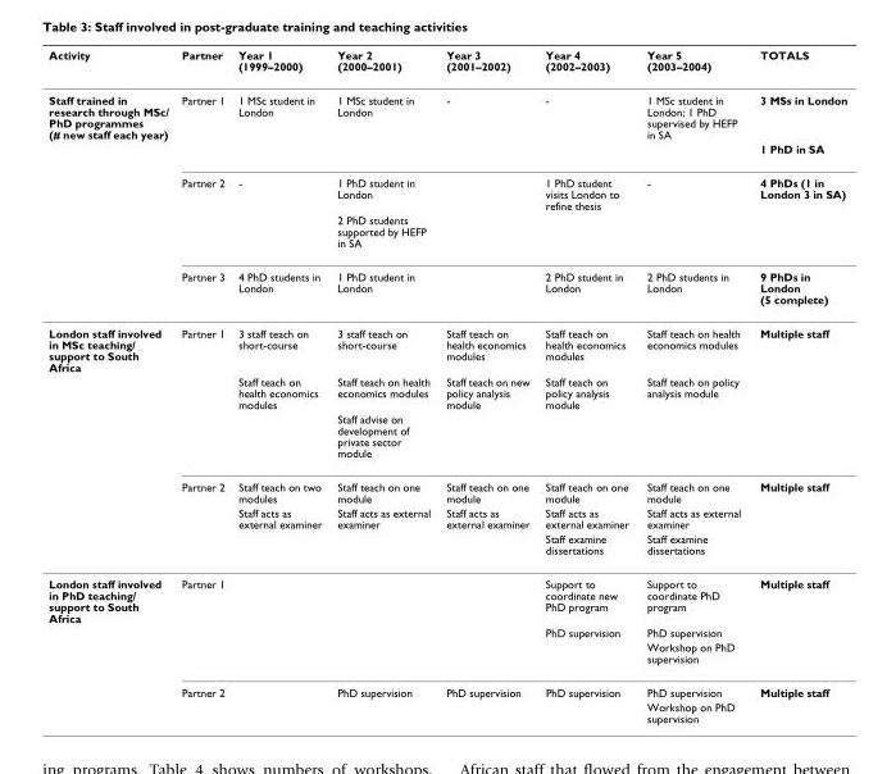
<table><thead><tr><td>Activity</td><td>Partner</td><td>Year 1 (1999–2000)</td><td>Year 2 (2000–2001)</td><td>Year 3 (2001–2002)</td><td>Year 4 (2002–2003)</td><td>Year 5 (2003–2004)</td><td>TOTALS</td></tr></thead><tbody><tr><td rowspan="5">Staff trained in research through MSc/ PhD programmes (# new staff each year)</td><td>Partner 1</td><td>1 MSc student in London</td><td>1 MSc student in London</td><td>-</td><td>-</td><td>1 MSc student in London; 1 PhD supervised by HEFP in SA</td><td>3 MSs in London</td></tr><tr><td></td><td></td><td></td><td></td><td></td><td></td><td>1 PhD in SA</td></tr><tr><td>Partner 2</td><td>-</td><td>1 PhD student in London</td><td></td><td>1 PhD student visits London to refine thesis</td><td>-</td><td>4 PhDs (1 in London 3 in SA)</td></tr><tr><td></td><td></td><td>2 PhD students supported by HEFP in SA</td><td></td><td></td><td></td><td></td></tr><tr><td>Partner 3</td><td>4 PhD students in London</td><td>1 PhD student in London</td><td></td><td>2 PhD student in London</td><td>2 PhD students in London</td><td>9 PhDs in London (5 complete)</td></tr><tr><td rowspan="6">London staff involved in MSc teaching/ support to South Africa</td><td>Partner 1</td><td>3 staff teach on short-course</td><td>3 staff teach on short-course</td><td>Staff teach on health economics modules</td><td>Staff teach on health economics modules</td><td>Staff teach on health economics modules</td><td>Multiple staff</td></tr><tr><td></td><td>Staff teach on health economics modules</td><td>Staff teach on health economics modules</td><td>Staff teach on new policy analysis module</td><td>Staff teach on policy analysis module</td><td>Staff teach on policy analysis module</td><td></td></tr><tr><td></td><td></td><td>Staff advise on development of private sector module</td><td></td><td></td><td></td><td></td></tr><tr><td>Partner 2</td><td>Staff teach on two modules</td><td>Staff teach on one module</td><td>Staff teach on one module</td><td>Staff teach on one module</td><td>Staff teach on one module</td><td>Multiple staff</td></tr><tr><td></td><td>Staff acts as external examiner</td><td>Staff acts as external examiner</td><td>Staff acts as external examiner</td><td>Staff acts as external examiner</td><td>Staff acts as external examiner</td><td></td></tr><tr><td></td><td></td><td></td><td></td><td>Staff examine dissertations</td><td>Staff examine dissertations</td><td></td></tr><tr><td rowspan="5">London staff involved in PhD teaching/ support to South Africa</td><td>Partner 1</td><td></td><td></td><td></td><td>Support to coordinate new PhD program</td><td>Support to coordinate PhD program</td><td>Multiple staff</td></tr><tr><td></td><td></td><td></td><td></td><td>PhD supervision</td><td>PhD supervision</td><td></td></tr><tr><td></td><td></td><td></td><td></td><td></td><td>Workshop on PhD supervision</td><td></td></tr><tr><td>Partner 2</td><td></td><td>PhD supervision</td><td>PhD supervision</td><td>PhD supervision</td><td>PhD supervision</td><td>Multiple staff</td></tr><tr><td></td><td></td><td></td><td></td><td></td><td>Workshop on PhD supervision</td><td></td></tr></tbody></table>